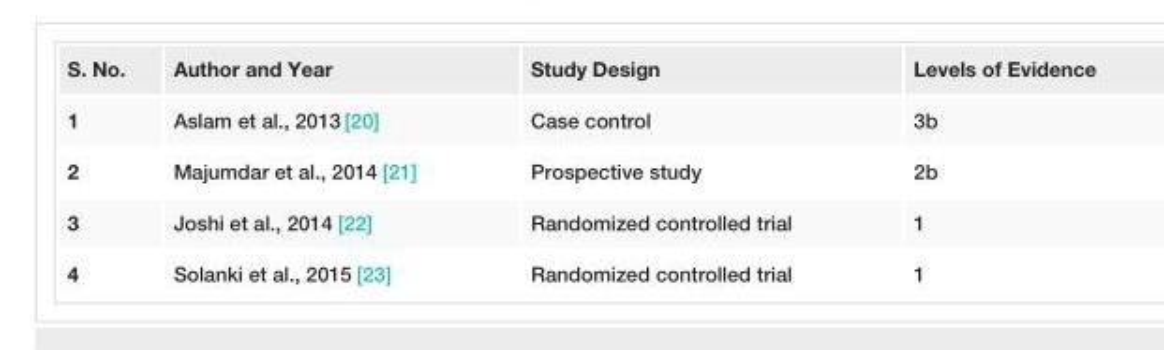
<table><tbody><tr><td>S. No.</td><td>Author and Year</td><td>Study Design</td><td>Levels of Evidence</td></tr><tr><td>1</td><td>Aslam et al., 2013 [20]</td><td>Case control</td><td>3b</td></tr><tr><td>2</td><td>Majumdar et al., 2014 [21]</td><td>Prospective study</td><td>2b</td></tr><tr><td>3</td><td>Joshi et al., 2014 [22]</td><td>Randomized controlled trial</td><td>1</td></tr><tr><td>4</td><td>Solanki et al., 2015 [23]</td><td>Randomized controlled trial</td><td>1</td></tr></tbody></table>